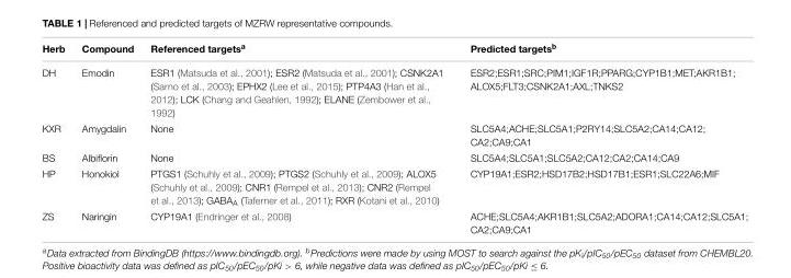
<table><thead><tr><td>Herb</td><td>Compound</td><td>Referenced targets<sup>a</sup></td><td>Predicted targets<sup>b</sup></td></tr></thead><tbody><tr><td>DH</td><td>Emodin</td><td>ESR1 (Matsuda et al., 2001); ESR2 (Matsuda et al., 2001); CSNK2A1 (Sarno et al., 2003); EPHX2 (Lee et al., 2015); PTP4A3 (Han et al., 2012); LCK (Chang and Geahlen, 1992); ELANE (Zembower et al., 1992)</td><td>ESR2;ESR1;SRC;PIM1;IGF1R;PPARG;CYP1B1;MET;AKR1B1; ALOX5;FLT3;CSNK2A1;AXL;TNKS2</td></tr><tr><td>KXR</td><td>Amygdalin</td><td>None</td><td>SLC5A4;ACHE;SLC5A1;P2RY14;SLC5A2;CA14;CA12; CA2;CA9;CA1</td></tr><tr><td>BS</td><td>Albiflorin</td><td>None</td><td>SLC5A4;SLC5A1;SLC5A2;CA12;CA2;CA14;CA9</td></tr><tr><td>HP</td><td>Honokiol</td><td>PTGS1 (Schuhly et al., 2009); PTGS2 (Schuhly et al., 2009); ALOX5 (Schuhly et al., 2009); CNR1 (Rempel et al., 2013); CNR2 (Rempel et al., 2013); GABA<sub>A</sub> (Taferner et al., 2011); RXR (Kotani et al., 2010)</td><td>CYP19A1;ESR2;HSD17B2;HSD17B1;ESR1;SLC22A6;MIF</td></tr><tr><td>ZS</td><td>Naringin</td><td>CYP19A1 (Endringer et al., 2008)</td><td>ACHE;SLC5A4;AKR1B1;SLC5A2;ADORA1;CA14;CA12;SLC5A1; CA2;CA9;CA1</td></tr></tbody></table>